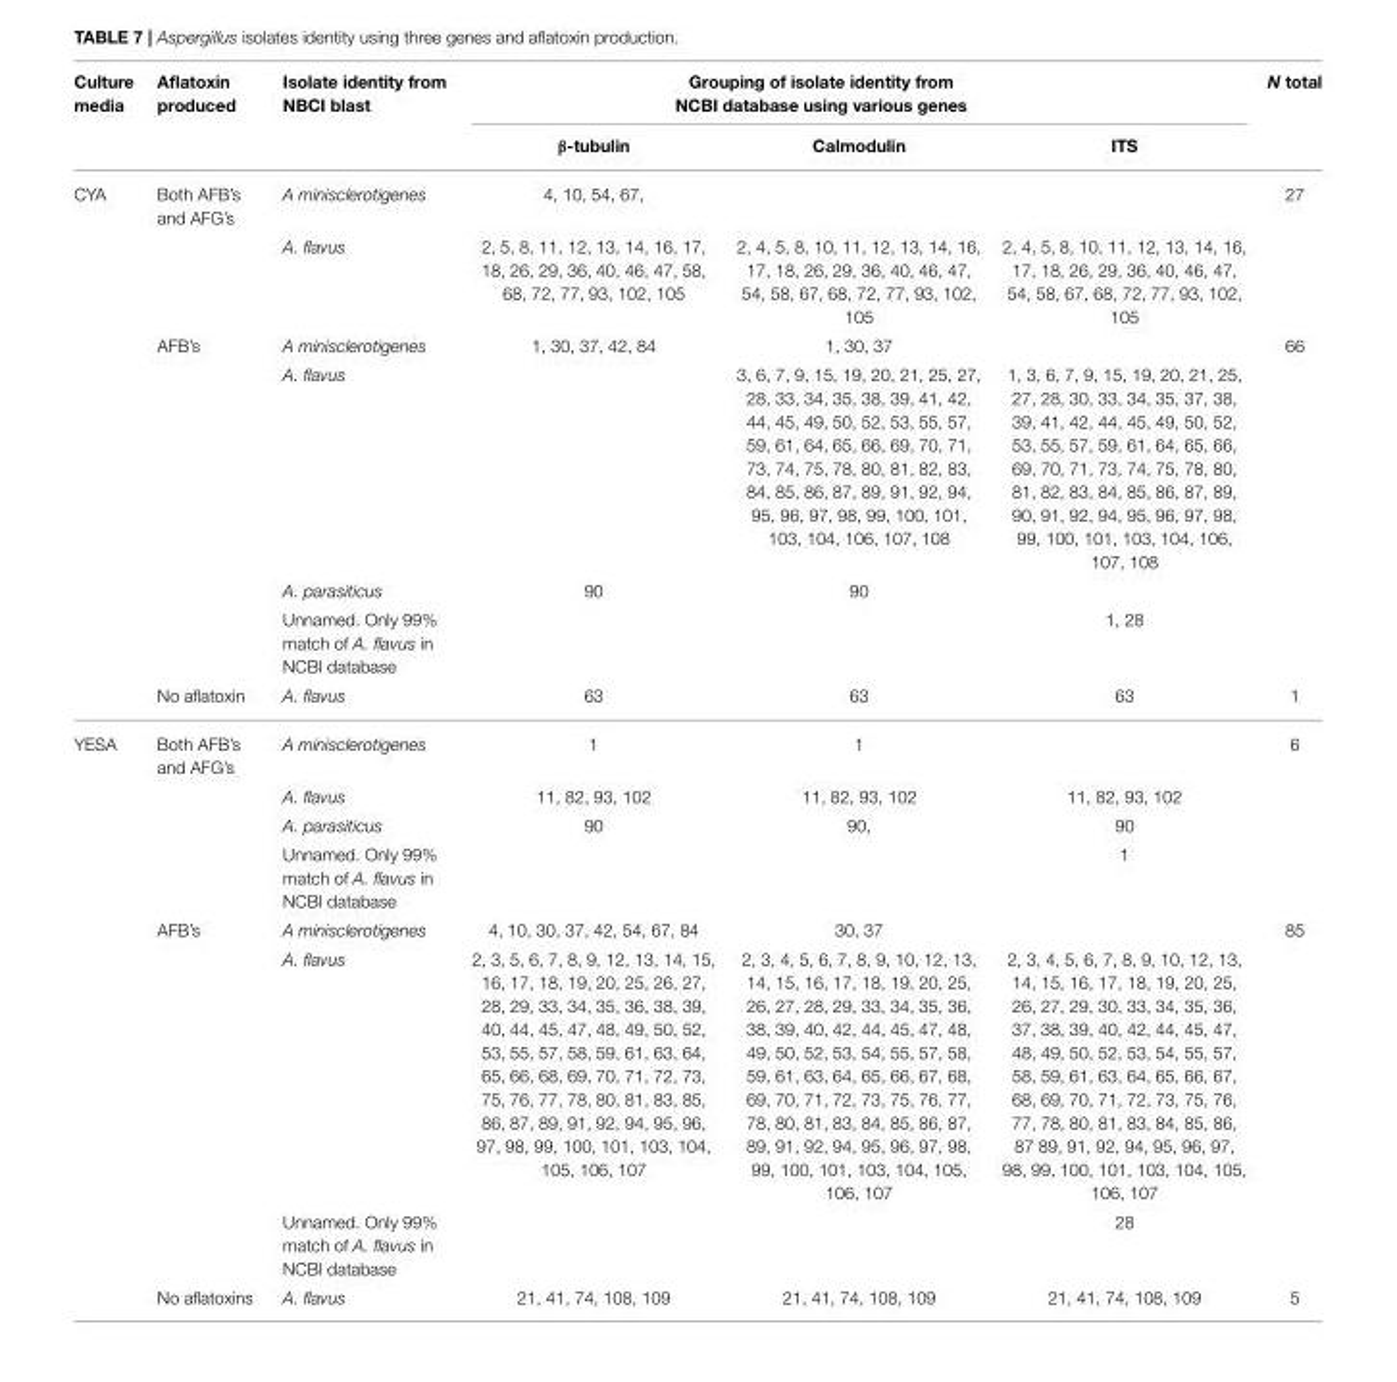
<table><thead><tr><td rowspan="2">Culture media</td><td rowspan="2">Aflatoxin produced</td><td rowspan="2">Isolate identity from NBCI blast</td><td colspan="3">Grouping of isolate identity from NCBI database using various genes</td><td rowspan="2">N total</td></tr><tr><td>β-tubulin</td><td>Calmodulin</td><td>ITS</td></tr></thead><tbody><tr><td rowspan="7">CYA</td><td>Both AFB’s and AFG’s</td><td>A minisclerotigenes</td><td>4, 10, 54, 67,</td><td></td><td></td><td>27</td></tr><tr><td></td><td>A. flavus</td><td>2, 5, 8, 11, 12, 13, 14, 16, 17, 18, 26, 29, 36, 40, 46, 47, 58, 68, 72, 77, 93, 102, 105</td><td>2, 4, 5, 8, 10, 11, 12, 13, 14, 16, 17, 18, 26, 29, 36, 40, 46, 47, 54, 58, 67, 68, 72, 77, 93, 102, 105</td><td>2, 4, 5, 8, 10, 11, 12, 13, 14, 16, 17, 18, 26, 29, 36, 40, 46, 47, 54, 58, 67, 68, 72, 77, 93, 102, 105</td><td></td></tr><tr><td>AFB’s</td><td>A minisclerotigenes</td><td>1, 30, 37, 42, 84</td><td>1, 30, 37</td><td></td><td>66</td></tr><tr><td></td><td>A. flavus</td><td></td><td>3, 6, 7, 9, 15, 19, 20, 21, 25, 27, 28, 33, 34, 35, 38, 39, 41, 42, 44, 45, 49, 50, 52, 53, 55, 57, 59, 61, 64, 65, 66, 69, 70, 71, 73, 74, 75, 78, 80, 81, 82, 83, 84, 85, 86, 87, 89, 91, 92, 94, 95, 96, 97, 98, 99, 100, 101, 103, 104, 106, 107, 108</td><td>1, 3, 6, 7, 9, 15, 19, 20, 21, 25, 27, 28, 30, 33, 34, 35, 37, 38, 39, 41, 42, 44, 45, 49, 50, 52, 53, 55, 57, 59, 61, 64, 65, 66, 69, 70, 71, 73, 74, 75, 78, 80, 81, 82, 83, 84, 85, 86, 87, 89, 90, 91, 92, 94, 95, 96, 97, 98, 99, 100, 101, 103, 104, 106, 107, 108</td><td></td></tr><tr><td></td><td>A. parasiticus</td><td>90</td><td>90</td><td></td><td></td></tr><tr><td></td><td>Unnamed. Only 99% match of A. flavus in NCBI database</td><td></td><td></td><td>1, 28</td><td></td></tr><tr><td>No aflatoxin</td><td>A. flavus</td><td>63</td><td>63</td><td>63</td><td>1</td></tr><tr><td rowspan="8">YESA</td><td>Both AFB’s and AFG’s</td><td>A minisclerotigenes</td><td>1</td><td>1</td><td></td><td>6</td></tr><tr><td></td><td>A. flavus</td><td>11, 82, 93, 102</td><td>11, 82, 93, 102</td><td>11, 82, 93, 102</td><td></td></tr><tr><td></td><td>A. parasiticus</td><td>90</td><td>90,</td><td>90</td><td></td></tr><tr><td></td><td>Unnamed. Only 99% match of A. flavus in NCBI database</td><td></td><td></td><td>1</td><td></td></tr><tr><td>AFB’s</td><td>A minisclerotigenes</td><td>4, 10, 30, 37, 42, 54, 67, 84</td><td>30, 37</td><td></td><td>85</td></tr><tr><td></td><td>A. flavus</td><td>2, 3, 5, 6, 7, 8, 9, 12, 13, 14, 15, 16, 17, 18, 19, 20, 25, 26, 27, 28, 29, 33, 34, 35, 36, 38, 39, 40, 44, 45, 47, 48, 49, 50, 52, 53, 55, 57, 58, 59, 61, 63, 64, 65, 66, 68, 69, 70, 71, 72, 73, 75, 76, 77, 78, 80, 81, 83, 85, 86, 87, 89, 91, 92, 94, 95, 96, 97, 98, 99, 100, 101, 103, 104, 105, 106, 107</td><td>2, 3, 4, 5, 6, 7, 8, 9, 10, 12, 13, 14, 15, 16, 17, 18, 19, 20, 25, 26, 27, 28, 29, 33, 34, 35, 36, 38, 39, 40, 42, 44, 45, 47, 48, 49, 50, 52, 53, 54, 55, 57, 58, 59, 61, 63, 64, 65, 66, 67, 68, 69, 70, 71, 72, 73, 75, 76, 77, 78, 80, 81, 83, 84, 85, 86, 87, 89, 91, 92, 94, 95, 96, 97, 98, 99, 100, 101, 103, 104, 105, 106, 107</td><td>2, 3, 4, 5, 6, 7, 8, 9, 10, 12, 13, 14, 15, 16, 17, 18, 19, 20, 25, 26, 27, 29, 30, 33, 34, 35, 36, 37, 38, 39, 40, 42, 44, 45, 47, 48, 49, 50, 52, 53, 54, 55, 57, 58, 59, 61, 63, 64, 65, 66, 67, 68, 69, 70, 71, 72, 73, 75, 76, 77, 78, 80, 81, 83, 84, 85, 86, 87 89, 91, 92, 94, 95, 96, 97, 98, 99, 100, 101, 103, 104, 105, 106, 107</td><td></td></tr><tr><td></td><td>Unnamed. Only 99% match of A. flavus in NCBI database</td><td></td><td></td><td>28</td><td></td></tr><tr><td>No aflatoxins</td><td>A. flavus</td><td>21, 41, 74, 108, 109</td><td>21, 41, 74, 108, 109</td><td>21, 41, 74, 108, 109</td><td>5</td></tr></tbody></table>